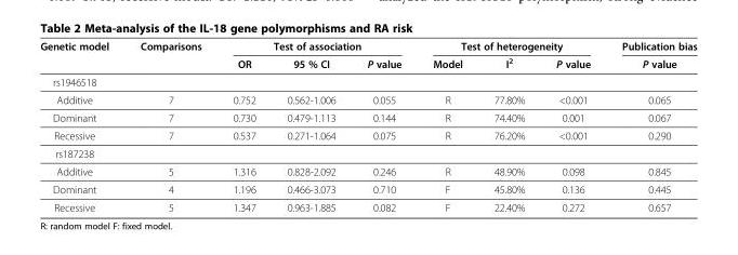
<table><thead><tr><td rowspan="2">Genetic model</td><td rowspan="2">Comparisons</td><td colspan="3">Test of association</td><td colspan="3">Test of heterogeneity</td><td rowspan="2">Publication bias P value</td></tr><tr><td>OR</td><td>95 % CI</td><td>P value</td><td>Model</td><td>I<sup>2</sup></td><td>P value</td></tr></thead><tbody><tr><td colspan="9">rs1946518</td></tr><tr><td>Additive</td><td>7</td><td>0.752</td><td>0.562-1.006</td><td>0.055</td><td>R</td><td>77.80%</td><td>&lt;0.001</td><td>0.065</td></tr><tr><td>Dominant</td><td>7</td><td>0.730</td><td>0.479-1.113</td><td>0.144</td><td>R</td><td>74.40%</td><td>0.001</td><td>0.067</td></tr><tr><td>Recessive</td><td>7</td><td>0.537</td><td>0.271-1.064</td><td>0.075</td><td>R</td><td>76.20%</td><td>&lt;0.001</td><td>0.290</td></tr><tr><td colspan="9">rs187238</td></tr><tr><td>Additive</td><td>5</td><td>1.316</td><td>0.828-2.092</td><td>0.246</td><td>R</td><td>48.90%</td><td>0.098</td><td>0.845</td></tr><tr><td>Dominant</td><td>4</td><td>1.196</td><td>0.466-3.073</td><td>0.710</td><td>F</td><td>45.80%</td><td>0.136</td><td>0.445</td></tr><tr><td>Recessive</td><td>5</td><td>1.347</td><td>0.963-1.885</td><td>0.082</td><td>F</td><td>22.40%</td><td>0.272</td><td>0.657</td></tr></tbody></table>